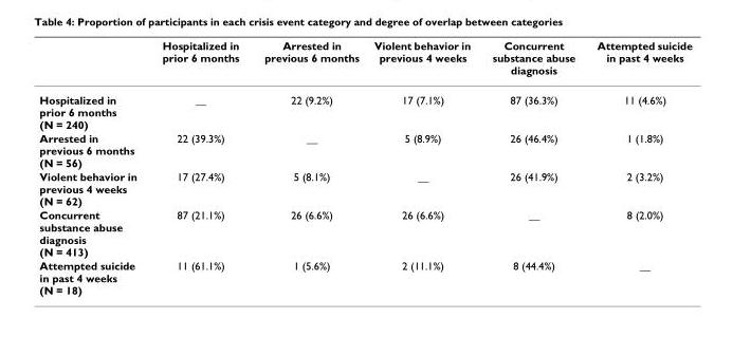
<table><thead><tr><td></td><td>Hospitalized in prior 6 months</td><td>Arrested in previous 6 months</td><td>Violent behavior in previous 4 weeks</td><td>Concurrent substance abuse diagnosis</td><td>Attempted suicide in past 4 weeks</td></tr></thead><tbody><tr><td>Hospitalized in prior 6 months (N = 240)</td><td>__</td><td>22 (9.2%)</td><td>17 (7.1%)</td><td>87 (36.3%)</td><td>11 (4.6%)</td></tr><tr><td>Arrested in previous 6 months (N = 56)</td><td>22 (39.3%)</td><td>__</td><td>5 (8.9%)</td><td>26 (46.4%)</td><td>1 (1.8%)</td></tr><tr><td>Violent behavior in previous 4 weeks (N = 62)</td><td>17 (27.4%)</td><td>5 (8.1%)</td><td>__</td><td>26 (41.9%)</td><td>2 (3.2%)</td></tr><tr><td>Concurrent substance abuse diagnosis (N = 413)</td><td>87 (21.1%)</td><td>26 (6.6%)</td><td>26 (6.6%)</td><td>__</td><td>8 (2.0%)</td></tr><tr><td>Attempted suicide in past 4 weeks (N = 18)</td><td>11 (61.1%)</td><td>1 (5.6%)</td><td>2 (11.1%)</td><td>8 (44.4%)</td><td>__</td></tr></tbody></table>